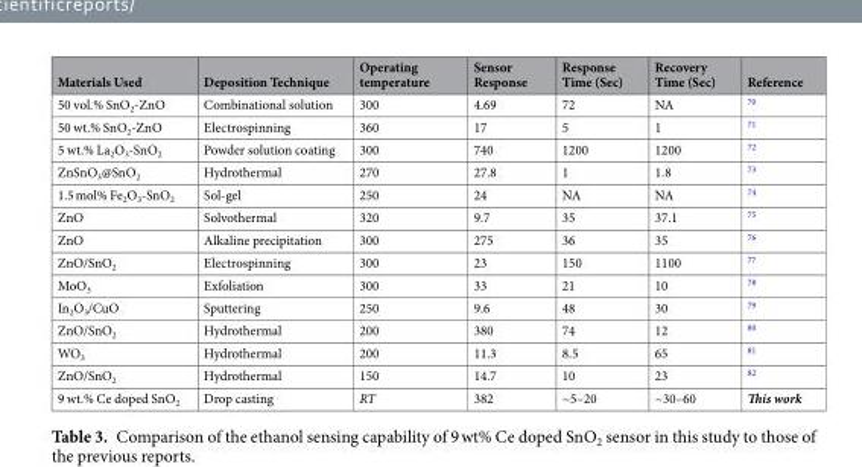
<table><thead><tr><td>Materials Used</td><td>Deposition Technique</td><td>Operating temperature</td><td>Sensor Response</td><td>Response Time (Sec)</td><td>Recovery Time (Sec)</td><td>Reference</td></tr></thead><tbody><tr><td>50 vol.% SnO<sub>2</sub>-ZnO</td><td>Combinational solution</td><td>300</td><td>4.69</td><td>72</td><td>NA</td><td><sup>70</sup></td></tr><tr><td>50 wt.% SnO<sub>2</sub>-ZnO</td><td>Electrospinning</td><td>360</td><td>17</td><td>5</td><td>1</td><td><sup>71</sup></td></tr><tr><td>5 wt.% La<sub>2</sub>O<sub>3</sub>-SnO<sub>2</sub></td><td>Powder solution coating</td><td>300</td><td>740</td><td>1200</td><td>1200</td><td><sup>72</sup></td></tr><tr><td>ZnSnO<sub>3</sub>@SnO<sub>2</sub></td><td>Hydrothermal</td><td>270</td><td>27.8</td><td>1</td><td>1.8</td><td><sup>73</sup></td></tr><tr><td>1.5 mol% Fe<sub>2</sub>O<sub>3</sub>-SnO<sub>2</sub></td><td>Sol-gel</td><td>250</td><td>24</td><td>NA</td><td>NA</td><td><sup>74</sup></td></tr><tr><td>ZnO</td><td>Solvothermal</td><td>320</td><td>9.7</td><td>35</td><td>37.1</td><td><sup>75</sup></td></tr><tr><td>ZnO</td><td>Alkaline precipitation</td><td>300</td><td>275</td><td>36</td><td>35</td><td><sup>76</sup></td></tr><tr><td>ZnO/SnO<sub>2</sub></td><td>Electrospinning</td><td>300</td><td>23</td><td>150</td><td>1100</td><td><sup>77</sup></td></tr><tr><td>MoO<sub>3</sub></td><td>Exfoliation</td><td>300</td><td>33</td><td>21</td><td>10</td><td><sup>78</sup></td></tr><tr><td>In<sub>2</sub>O<sub>3</sub>/CuO</td><td>Sputtering</td><td>250</td><td>9.6</td><td>48</td><td>30</td><td><sup>79</sup></td></tr><tr><td>ZnO/SnO<sub>2</sub></td><td>Hydrothermal</td><td>200</td><td>380</td><td>74</td><td>12</td><td><sup>80</sup></td></tr><tr><td>WO<sub>3</sub></td><td>Hydrothermal</td><td>200</td><td>11.3</td><td>8.5</td><td>65</td><td><sup>81</sup></td></tr><tr><td>ZnO/SnO<sub>2</sub></td><td>Hydrothermal</td><td>150</td><td>14.7</td><td>10</td><td>23</td><td><sup>82</sup></td></tr><tr><td>9 wt.% Ce doped SnO<sub>2</sub></td><td>Drop casting</td><td>RT</td><td>382</td><td>~5–20</td><td>~30–60</td><td>This work</td></tr></tbody></table>